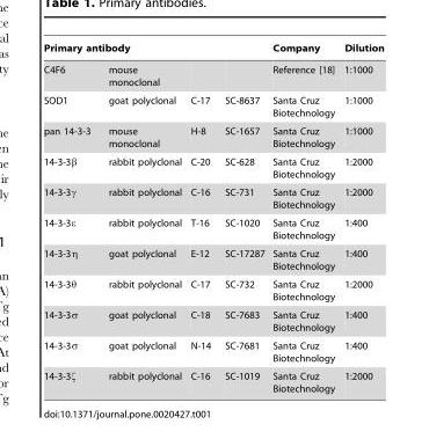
<table><thead><tr><td colspan="3">Primary antibody</td><td rowspan="2"></td><td rowspan="2">Company Reference [18]</td><td rowspan="2">Dilution 1:1000</td></tr><tr><td>C4F6</td><td>mouse monoclonal</td><td></td></tr></thead><tbody><tr><td>SOD1</td><td>goat polyclonal</td><td>C-17</td><td>SC-8637</td><td>Santa Cruz Biotechnology</td><td>1:1000</td></tr><tr><td>pan 14-3-3</td><td>mouse monoclonal</td><td>H-8</td><td>SC-1657</td><td>Santa Cruz Biotechnology</td><td>1:1000</td></tr><tr><td>14-3-3β</td><td>rabbit polyclonal</td><td>C-20</td><td>SC-628</td><td>Santa Cruz Biotechnology</td><td>1:2000</td></tr><tr><td>14-3-3γ</td><td>rabbit polyclonal</td><td>C-16</td><td>SC-731</td><td>Santa Cruz Biotechnology</td><td>1:2000</td></tr><tr><td>14-3-3ε</td><td>rabbit polyclonal</td><td>T-16</td><td>SC-1020</td><td>Santa Cruz Biotechnology</td><td>1:400</td></tr><tr><td>14-3-3η</td><td>goat polyclonal</td><td>E-12</td><td>SC-17287</td><td>Santa Cruz Biotechnology</td><td>1:400</td></tr><tr><td>14-3-3θ</td><td>rabbit polyclonal</td><td>C-17</td><td>SC-732</td><td>Santa Cruz Biotechnology</td><td>1:2000</td></tr><tr><td>14-3-3σ</td><td>goat polyclonal</td><td>C-18</td><td>SC-7683</td><td>Santa Cruz Biotechnology</td><td>1:400</td></tr><tr><td>14-3-3σ</td><td>goat polyclonal</td><td>N-14</td><td>SC-7681</td><td>Santa Cruz Biotechnology</td><td>1:400</td></tr><tr><td>14-3-3ζ</td><td>rabbit polyclonal</td><td>C-16</td><td>SC-1019</td><td>Santa Cruz Biotechnology</td><td>1:2000</td></tr></tbody></table>